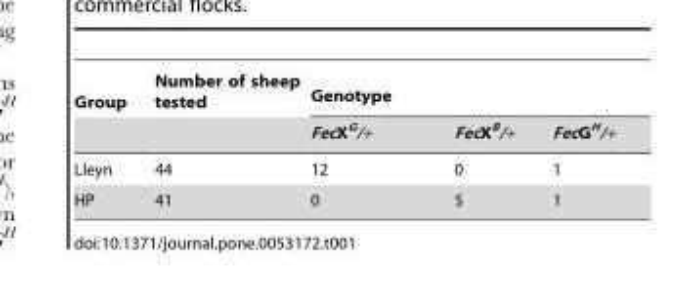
<table><thead><tr><td rowspan="2">Group</td><td rowspan="2">Number of sheep tested</td><td colspan="3">Genotype</td></tr><tr><td>FecX<sup>G</sup>/+</td><td>FecX<sup>B</sup>/+</td><td>FecG<sup>H</sup>/+</td></tr></thead><tbody><tr><td>Lleyn</td><td>44</td><td>12</td><td>0</td><td>1</td></tr><tr><td>HP</td><td>41</td><td>0</td><td>5</td><td>1</td></tr></tbody></table>